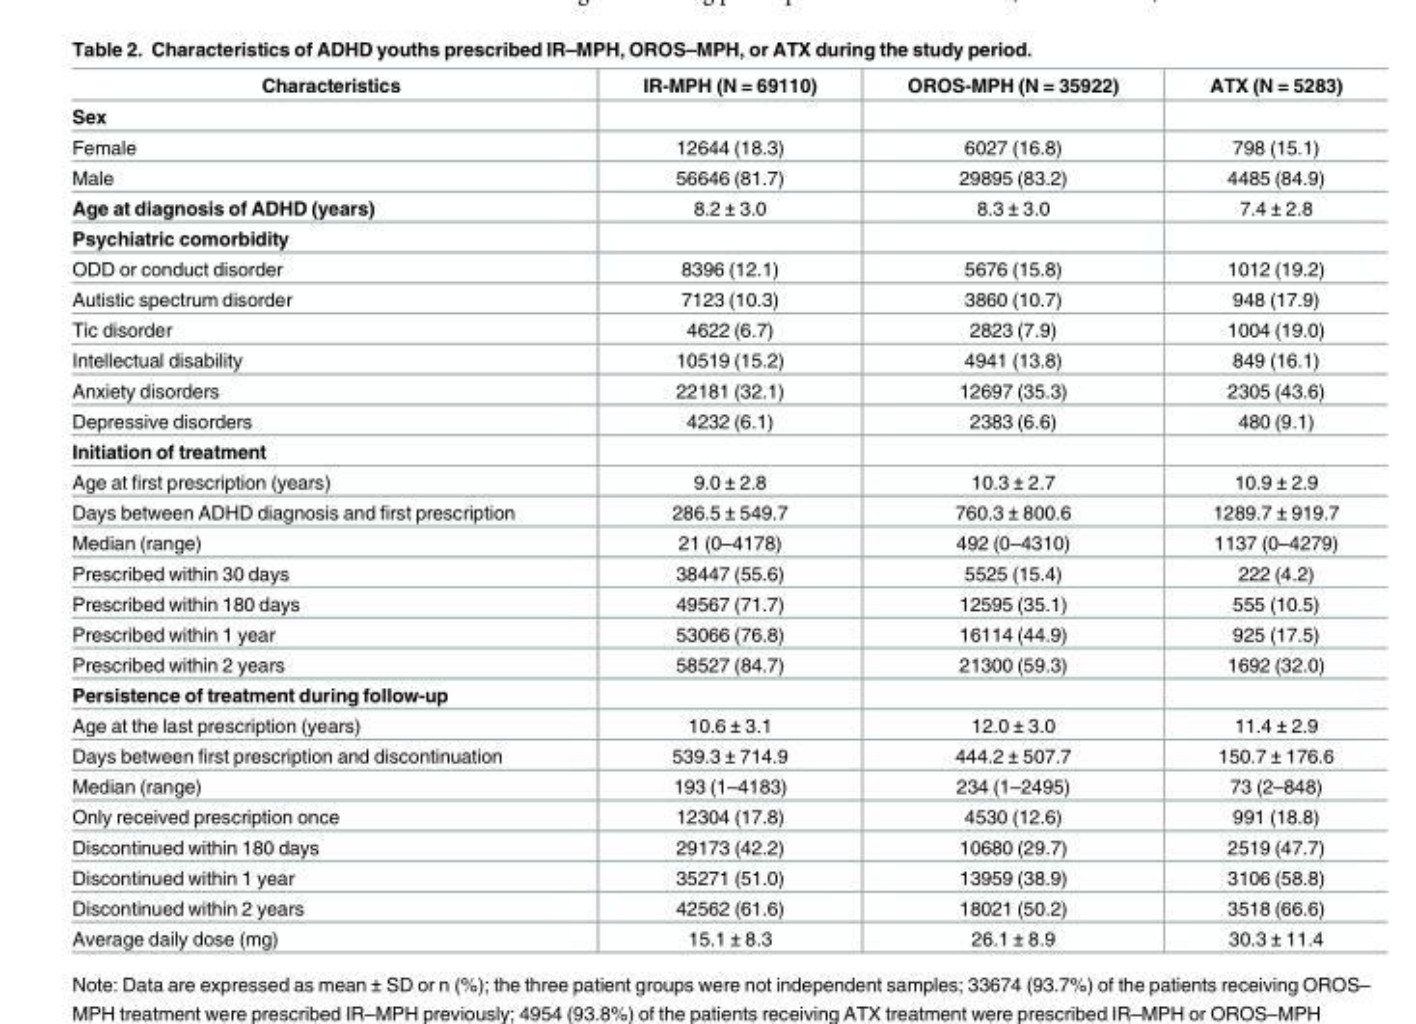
<table><thead><tr><td>Characteristics</td><td>IR-MPH (N = 69110)</td><td>OROS-MPH (N = 35922)</td><td>ATX (N = 5283)</td></tr></thead><tbody><tr><td colspan="4">Sex</td></tr><tr><td>Female</td><td>12644 (18.3)</td><td>6027 (16.8)</td><td>798 (15.1)</td></tr><tr><td>Male</td><td>56646 (81.7)</td><td>29895 (83.2)</td><td>4485 (84.9)</td></tr><tr><td>Age at diagnosis of ADHD (years)</td><td>8.2 ± 3.0</td><td>8.3 ± 3.0</td><td>7.4 ± 2.8</td></tr><tr><td colspan="4">Psychiatric comorbidity</td></tr><tr><td>ODD or conduct disorder</td><td>8396 (12.1)</td><td>5676 (15.8)</td><td>1012 (19.2)</td></tr><tr><td>Autistic spectrum disorder</td><td>7123 (10.3)</td><td>3860 (10.7)</td><td>948 (17.9)</td></tr><tr><td>Tic disorder</td><td>4622 (6.7)</td><td>2823 (7.9)</td><td>1004 (19.0)</td></tr><tr><td>Intellectual disability</td><td>10519 (15.2)</td><td>4941 (13.8)</td><td>849 (16.1)</td></tr><tr><td>Anxiety disorders</td><td>22181 (32.1)</td><td>12697 (35.3)</td><td>2305 (43.6)</td></tr><tr><td>Depressive disorders</td><td>4232 (6.1)</td><td>2383 (6.6)</td><td>480 (9.1)</td></tr><tr><td colspan="4">Initiation of treatment</td></tr><tr><td>Age at first prescription (years)</td><td>9.0 ± 2.8</td><td>10.3 ± 2.7</td><td>10.9 ± 2.9</td></tr><tr><td>Days between ADHD diagnosis and first prescription</td><td>286.5 ± 549.7</td><td>760.3 ± 800.6</td><td>1289.7 ± 919.7</td></tr><tr><td>Median (range)</td><td>21 (0–4178)</td><td>492 (0–4310)</td><td>1137 (0–4279)</td></tr><tr><td>Prescribed within 30 days</td><td>38447 (55.6)</td><td>5525 (15.4)</td><td>222 (4.2)</td></tr><tr><td>Prescribed within 180 days</td><td>49567 (71.7)</td><td>12595 (35.1)</td><td>555 (10.5)</td></tr><tr><td>Prescribed within 1 year</td><td>53066 (76.8)</td><td>16114 (44.9)</td><td>925 (17.5)</td></tr><tr><td>Prescribed within 2 years</td><td>58527 (84.7)</td><td>21300 (59.3)</td><td>1692 (32.0)</td></tr><tr><td colspan="4">Persistence of treatment during follow-up</td></tr><tr><td>Age at the last prescription (years)</td><td>10.6 ± 3.1</td><td>12.0 ± 3.0</td><td>11.4 ± 2.9</td></tr><tr><td>Days between first prescription and discontinuation</td><td>539.3 ± 714.9</td><td>444.2 ± 507.7</td><td>150.7 ± 176.6</td></tr><tr><td>Median (range)</td><td>193 (1–4183)</td><td>234 (1–2495)</td><td>73 (2–848)</td></tr><tr><td>Only received prescription once</td><td>12304 (17.8)</td><td>4530 (12.6)</td><td>991 (18.8)</td></tr><tr><td>Discontinued within 180 days</td><td>29173 (42.2)</td><td>10680 (29.7)</td><td>2519 (47.7)</td></tr><tr><td>Discontinued within 1 year</td><td>35271 (51.0)</td><td>13959 (38.9)</td><td>3106 (58.8)</td></tr><tr><td>Discontinued within 2 years</td><td>42562 (61.6)</td><td>18021 (50.2)</td><td>3518 (66.6)</td></tr><tr><td>Average daily dose (mg)</td><td>15.1 ± 8.3</td><td>26.1 ± 8.9</td><td>30.3 ± 11.4</td></tr></tbody></table>